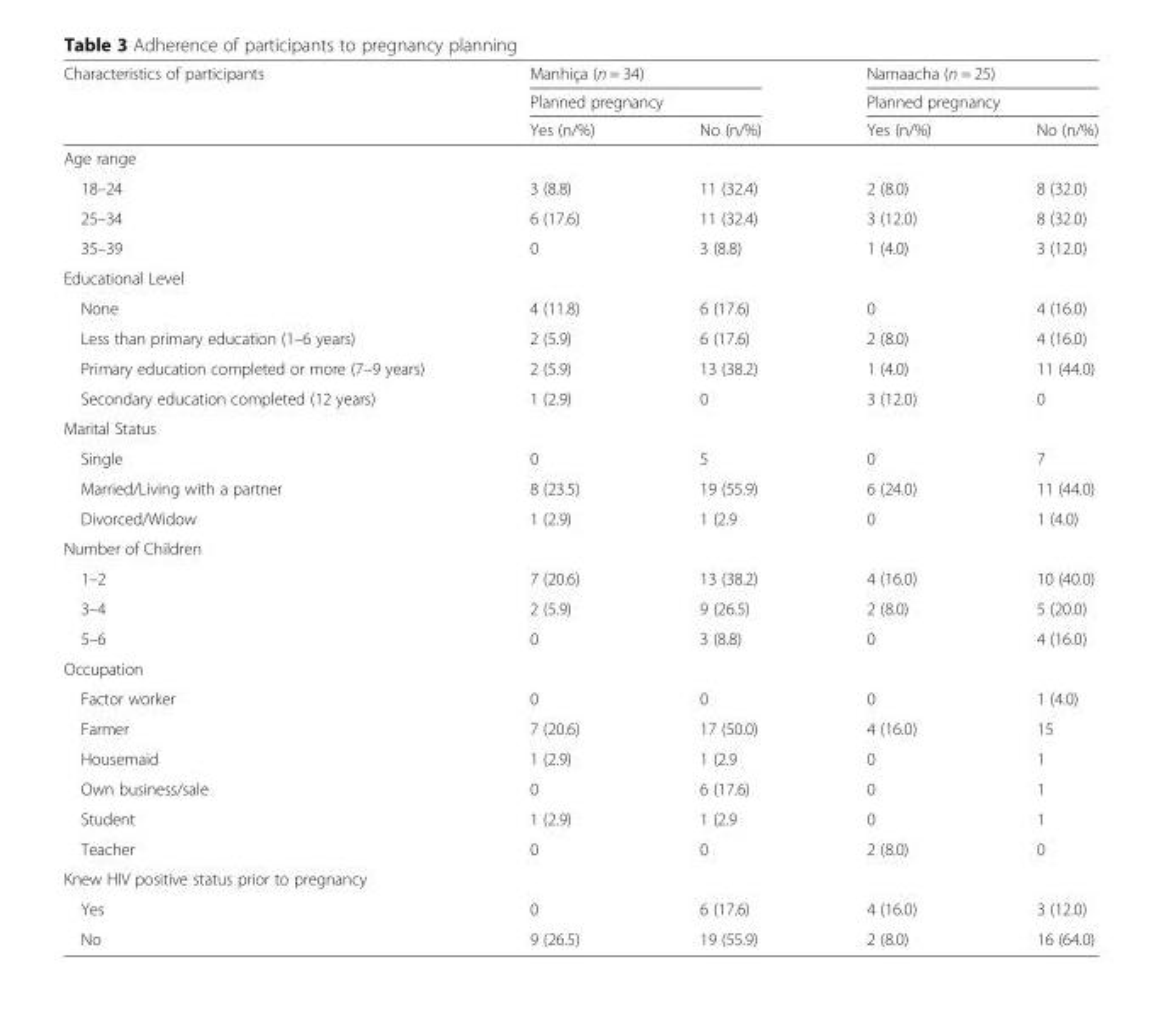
<table><thead><tr><td rowspan="3">Characteristics of participants</td><td rowspan="2" colspan="2">Manhiça (n = 34) Planned pregnancy</td><td rowspan="2" colspan="2">Namaacha (n = 25) Planned pregnancy</td></tr><tr></tr><tr><td>Yes (n/%)</td><td>No (n/%)</td><td>Yes (n/%)</td><td>No (n/%)</td></tr></thead><tbody><tr><td colspan="5">Age range</td></tr><tr><td>18–24</td><td>3 (8.8)</td><td>11 (32.4)</td><td>2 (8.0)</td><td>8 (32.0)</td></tr><tr><td>25–34</td><td>6 (17.6)</td><td>11 (32.4)</td><td>3 (12.0)</td><td>8 (32.0)</td></tr><tr><td>35–39</td><td>0</td><td>3 (8.8)</td><td>1 (4.0)</td><td>3 (12.0)</td></tr><tr><td colspan="5">Educational Level</td></tr><tr><td>None</td><td>4 (11.8)</td><td>6 (17.6)</td><td>0</td><td>4 (16.0)</td></tr><tr><td>Less than primary education (1–6 years)</td><td>2 (5.9)</td><td>6 (17.6)</td><td>2 (8.0)</td><td>4 (16.0)</td></tr><tr><td>Primary education completed or more (7–9 years)</td><td>2 (5.9)</td><td>13 (38.2)</td><td>1 (4.0)</td><td>11 (44.0)</td></tr><tr><td>Secondary education completed (12 years)</td><td>1 (2.9)</td><td>0</td><td>3 (12.0)</td><td>0</td></tr><tr><td colspan="5">Marital Status</td></tr><tr><td>Single</td><td>0</td><td>5</td><td>0</td><td>7</td></tr><tr><td>Married/Living with a partner</td><td>8 (23.5)</td><td>19 (55.9)</td><td>6 (24.0)</td><td>11 (44.0)</td></tr><tr><td>Divorced/Widow</td><td>1 (2.9)</td><td>1 (2.9</td><td>0</td><td>1 (4.0)</td></tr><tr><td colspan="5">Number of Children</td></tr><tr><td>1–2</td><td>7 (20.6)</td><td>13 (38.2)</td><td>4 (16.0)</td><td>10 (40.0)</td></tr><tr><td>3–4</td><td>2 (5.9)</td><td>9 (26.5)</td><td>2 (8.0)</td><td>5 (20.0)</td></tr><tr><td>5–6</td><td>0</td><td>3 (8.8)</td><td>0</td><td>4 (16.0)</td></tr><tr><td colspan="5">Occupation</td></tr><tr><td>Factor worker</td><td>0</td><td>0</td><td>0</td><td>1 (4.0)</td></tr><tr><td>Farmer</td><td>7 (20.6)</td><td>17 (50.0)</td><td>4 (16.0)</td><td>15</td></tr><tr><td>Housemaid</td><td>1 (2.9)</td><td>1 (2.9</td><td>0</td><td>1</td></tr><tr><td>Own business/sale</td><td>0</td><td>6 (17.6)</td><td>0</td><td>1</td></tr><tr><td>Student</td><td>1 (2.9)</td><td>1 (2.9</td><td>0</td><td>1</td></tr><tr><td>Teacher</td><td>0</td><td>0</td><td>2 (8.0)</td><td>0</td></tr><tr><td colspan="5">Knew HIV positive status prior to pregnancy</td></tr><tr><td>Yes</td><td>0</td><td>6 (17.6)</td><td>4 (16.0)</td><td>3 (12.0)</td></tr><tr><td>No</td><td>9 (26.5)</td><td>19 (55.9)</td><td>2 (8.0)</td><td>16 (64.0)</td></tr></tbody></table>